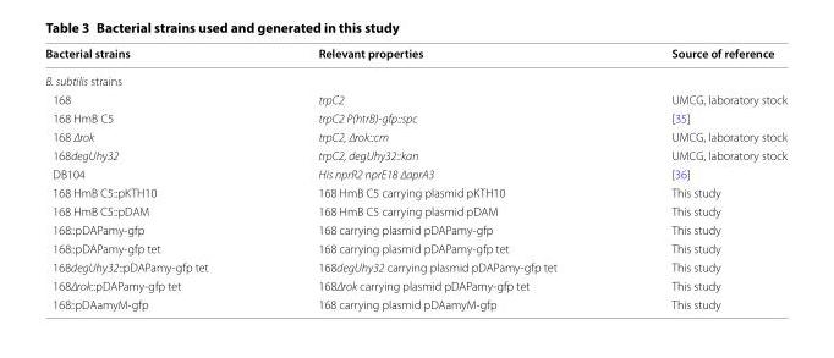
<table><thead><tr><td>Bacterial strains</td><td>Relevant properties</td><td>Source of reference</td></tr></thead><tbody><tr><td colspan="3">B. subtilis strains</td></tr><tr><td>168</td><td>trpC2</td><td>UMCG, laboratory stock</td></tr><tr><td>168 HmB C5</td><td>trpC2 P(htrB)-gfp::spc</td><td>[35]</td></tr><tr><td>168 ∆rok</td><td>trpC2, ∆rok::cm</td><td>UMCG, laboratory stock</td></tr><tr><td>168degUhy32</td><td>trpC2, degUhy32::kan</td><td>UMCG, laboratory stock</td></tr><tr><td>DB104</td><td>His nprR2 nprE18 ∆aprA3</td><td>[36]</td></tr><tr><td>168 HmB C5::pKTH10</td><td>168 HmB C5 carrying plasmid pKTH10</td><td>This study</td></tr><tr><td>168 HmB C5::pDAM</td><td>168 HmB C5 carrying plasmid pDAM</td><td>This study</td></tr><tr><td>168::pDAPamy-gfp</td><td>168 carrying plasmid pDAPamy-gfp</td><td>This study</td></tr><tr><td>168::pDAPamy-gfp tet</td><td>168 carrying plasmid pDAPamy-gfp tet</td><td>This study</td></tr><tr><td>168degUhy32::pDAPamy-gfp tet</td><td>168degUhy32 carrying plasmid pDAPamy-gfp tet</td><td>This study</td></tr><tr><td>168∆rok::pDAPamy-gfp tet</td><td>168∆rok carrying plasmid pDAPamy-gfp tet</td><td>This study</td></tr><tr><td>168::pDAamyM-gfp</td><td>168 carrying plasmid pDAamyM-gfp</td><td>This study</td></tr></tbody></table>